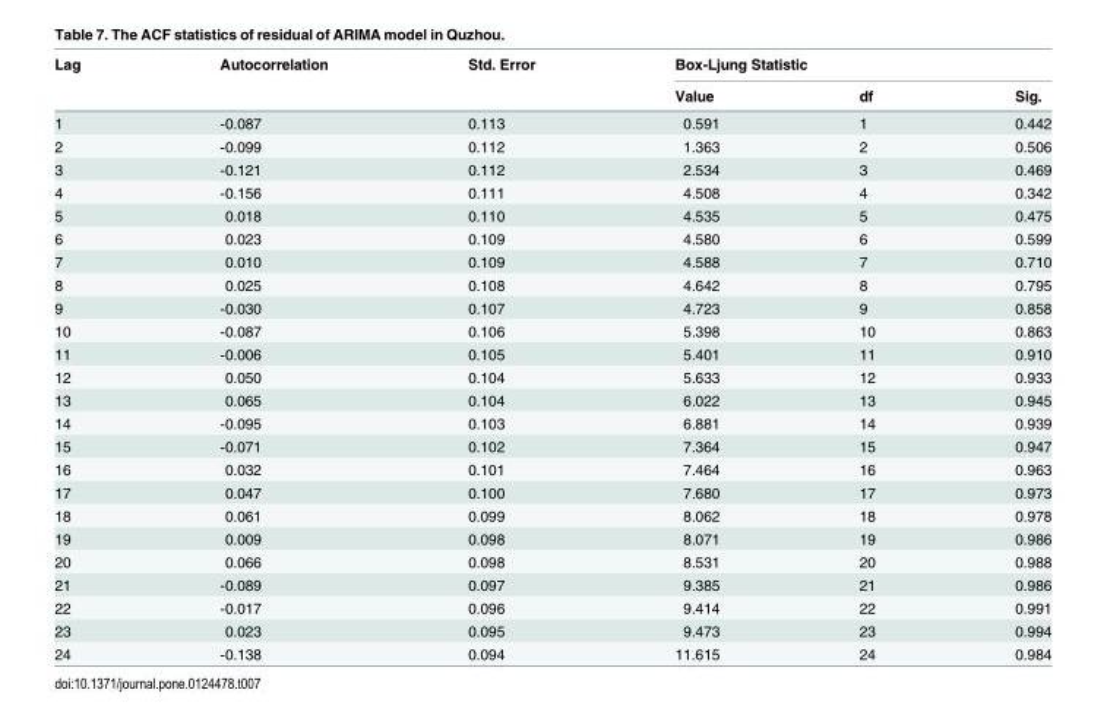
<table><thead><tr><td rowspan="2">Lag</td><td rowspan="2">Autocorrelation</td><td rowspan="2">Std. Error</td><td colspan="3">Box-Ljung Statistic</td></tr><tr><td>Value</td><td>df</td><td>Sig.</td></tr></thead><tbody><tr><td>1</td><td>-0.087</td><td>0.113</td><td>0.591</td><td>1</td><td>0.442</td></tr><tr><td>2</td><td>-0.099</td><td>0.112</td><td>1.363</td><td>2</td><td>0.506</td></tr><tr><td>3</td><td>-0.121</td><td>0.112</td><td>2.534</td><td>3</td><td>0.469</td></tr><tr><td>4</td><td>-0.156</td><td>0.111</td><td>4.508</td><td>4</td><td>0.342</td></tr><tr><td>5</td><td>0.018</td><td>0.110</td><td>4.535</td><td>5</td><td>0.475</td></tr><tr><td>6</td><td>0.023</td><td>0.109</td><td>4.580</td><td>6</td><td>0.599</td></tr><tr><td>7</td><td>0.010</td><td>0.109</td><td>4.588</td><td>7</td><td>0.710</td></tr><tr><td>8</td><td>0.025</td><td>0.108</td><td>4.642</td><td>8</td><td>0.795</td></tr><tr><td>9</td><td>-0.030</td><td>0.107</td><td>4.723</td><td>9</td><td>0.858</td></tr><tr><td>10</td><td>-0.087</td><td>0.106</td><td>5.398</td><td>10</td><td>0.863</td></tr><tr><td>11</td><td>-0.006</td><td>0.105</td><td>5.401</td><td>11</td><td>0.910</td></tr><tr><td>12</td><td>0.050</td><td>0.104</td><td>5.633</td><td>12</td><td>0.933</td></tr><tr><td>13</td><td>0.065</td><td>0.104</td><td>6.022</td><td>13</td><td>0.945</td></tr><tr><td>14</td><td>-0.095</td><td>0.103</td><td>6.881</td><td>14</td><td>0.939</td></tr><tr><td>15</td><td>-0.071</td><td>0.102</td><td>7.364</td><td>15</td><td>0.947</td></tr><tr><td>16</td><td>0.032</td><td>0.101</td><td>7.464</td><td>16</td><td>0.963</td></tr><tr><td>17</td><td>0.047</td><td>0.100</td><td>7.680</td><td>17</td><td>0.973</td></tr><tr><td>18</td><td>0.061</td><td>0.099</td><td>8.062</td><td>18</td><td>0.978</td></tr><tr><td>19</td><td>0.009</td><td>0.098</td><td>8.071</td><td>19</td><td>0.986</td></tr><tr><td>20</td><td>0.066</td><td>0.098</td><td>8.531</td><td>20</td><td>0.988</td></tr><tr><td>21</td><td>-0.089</td><td>0.097</td><td>9.385</td><td>21</td><td>0.986</td></tr><tr><td>22</td><td>-0.017</td><td>0.096</td><td>9.414</td><td>22</td><td>0.991</td></tr><tr><td>23</td><td>0.023</td><td>0.095</td><td>9.473</td><td>23</td><td>0.994</td></tr><tr><td>24</td><td>-0.138</td><td>0.094</td><td>11.615</td><td>24</td><td>0.984</td></tr></tbody></table>